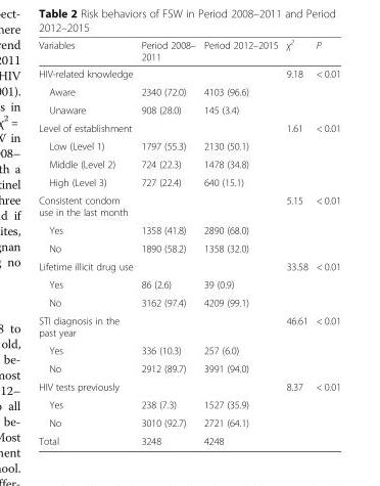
<table><thead><tr><td>Variables</td><td>Period 2008– 2011</td><td>Period 2012–2015</td><td>χ<sup>2</sup></td><td>P</td></tr></thead><tbody><tr><td>HIV-related knowledge</td><td></td><td></td><td>9.18</td><td>&lt; 0.01</td></tr><tr><td>Aware</td><td>2340 (72.0)</td><td>4103 (96.6)</td><td rowspan="2"></td><td rowspan="2"></td></tr><tr><td>Unaware</td><td>908 (28.0)</td><td>145 (3.4)</td></tr><tr><td>Level of establishment</td><td></td><td></td><td>1.61</td><td>&lt; 0.01</td></tr><tr><td>Low (Level 1)</td><td>1797 (55.3)</td><td>2130 (50.1)</td><td rowspan="3"></td><td rowspan="3"></td></tr><tr><td>Middle (Level 2)</td><td>724 (22.3)</td><td>1478 (34.8)</td></tr><tr><td>High (Level 3)</td><td>727 (22.4)</td><td>640 (15.1)</td></tr><tr><td>Consistent condom use in the last month</td><td></td><td></td><td>5.15</td><td>&lt; 0.01</td></tr><tr><td>Yes</td><td>1358 (41.8)</td><td>2890 (68.0)</td><td rowspan="2"></td><td rowspan="2"></td></tr><tr><td>No</td><td>1890 (58.2)</td><td>1358 (32.0)</td></tr><tr><td>Lifetime illicit drug use</td><td></td><td></td><td>33.58</td><td>&lt; 0.01</td></tr><tr><td>Yes</td><td>86 (2.6)</td><td>39 (0.9)</td><td rowspan="2"></td><td rowspan="2"></td></tr><tr><td>No</td><td>3162 (97.4)</td><td>4209 (99.1)</td></tr><tr><td>STI diagnosis in the past year</td><td></td><td></td><td>46.61</td><td>&lt; 0.01</td></tr><tr><td>Yes</td><td>336 (10.3)</td><td>257 (6.0)</td><td rowspan="2"></td><td rowspan="2"></td></tr><tr><td>No</td><td>2912 (89.7)</td><td>3991 (94.0)</td></tr><tr><td>HIV tests previously</td><td></td><td></td><td>8.37</td><td>&lt; 0.01</td></tr><tr><td>Yes</td><td>238 (7.3)</td><td>1527 (35.9)</td><td rowspan="2"></td><td rowspan="2"></td></tr><tr><td>No</td><td>3010 (92.7)</td><td>2721 (64.1)</td></tr><tr><td>Total</td><td>3248</td><td>4248</td><td></td><td></td></tr></tbody></table>